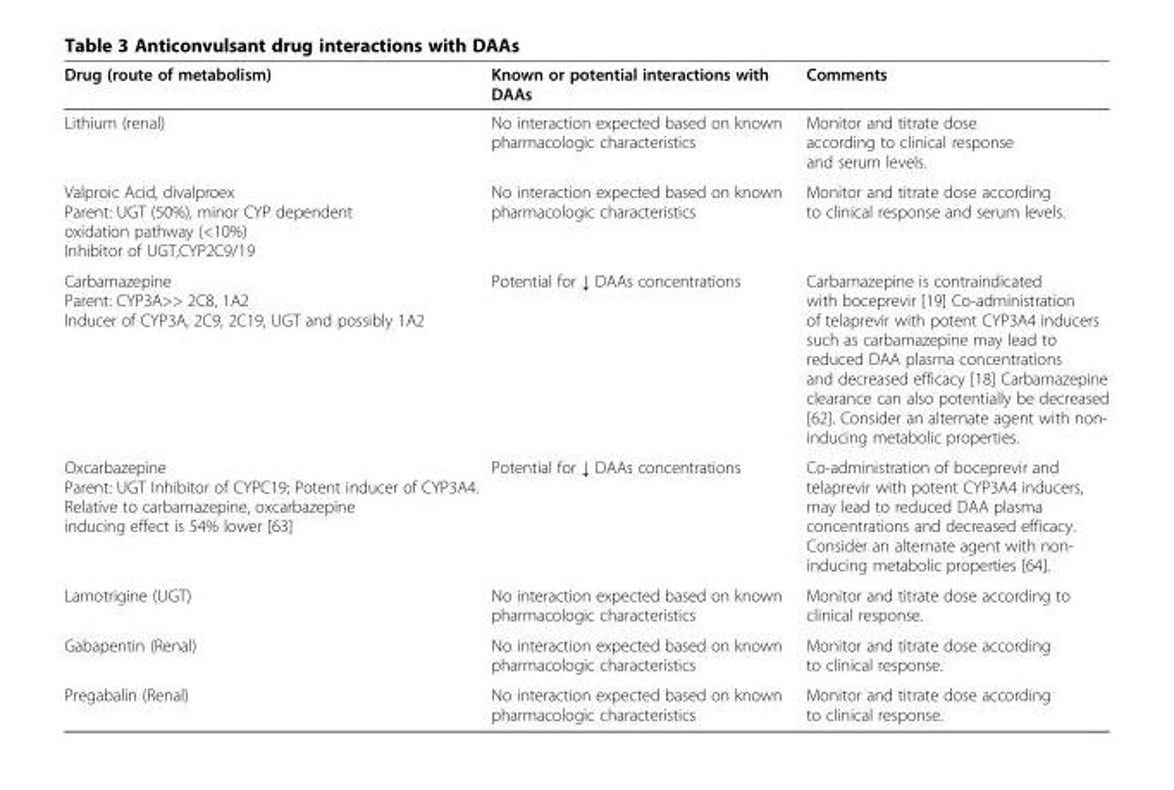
<table><thead><tr><td>Drug (route of metabolism)</td><td>Known or potential interactions with DAAs</td><td>Comments</td></tr></thead><tbody><tr><td>Lithium (renal)</td><td>No interaction expected based on known pharmacologic characteristics</td><td>Monitor and titrate dose according to clinical response and serum levels.</td></tr><tr><td>Valproic Acid, divalproex Parent: UGT (50%), minor CYP dependent oxidation pathway (&lt;10%) Inhibitor of UGT,CYP2C9/19</td><td>No interaction expected based on known pharmacologic characteristics</td><td>Monitor and titrate dose according to clinical response and serum levels.</td></tr><tr><td>Carbamazepine Parent: CYP3A&gt;&gt; 2C8, 1A2 Inducer of CYP3A, 2C9, 2C19, UGT and possibly 1A2</td><td>Potential for ↓ DAAs concentrations</td><td>Carbamazepine is contraindicated with boceprevir [19] Co-administration of telaprevir with potent CYP3A4 inducers such as carbamazepine may lead to reduced DAA plasma concentrations and decreased efficacy [18] Carbamazepine clearance can also potentially be decreased [62]. Consider an alternate agent with non- inducing metabolic properties.</td></tr><tr><td>Oxcarbazepine Parent: UGT Inhibitor of CYPC19; Potent inducer of CYP3A4. Relative to carbamazepine, oxcarbazepine inducing effect is 54% lower [63]</td><td>Potential for ↓ DAAs concentrations</td><td>Co-administration of boceprevir and telaprevir with potent CYP3A4 inducers, may lead to reduced DAA plasma concentrations and decreased efficacy. Consider an alternate agent with non- inducing metabolic properties [64].</td></tr><tr><td>Lamotrigine (UGT)</td><td>No interaction expected based on known pharmacologic characteristics</td><td>Monitor and titrate dose according to clinical response.</td></tr><tr><td>Gabapentin (Renal)</td><td>No interaction expected based on known pharmacologic characteristics</td><td>Monitor and titrate dose according to clinical response.</td></tr><tr><td>Pregabalin (Renal)</td><td>No interaction expected based on known pharmacologic characteristics</td><td>Monitor and titrate dose according to clinical response.</td></tr></tbody></table>